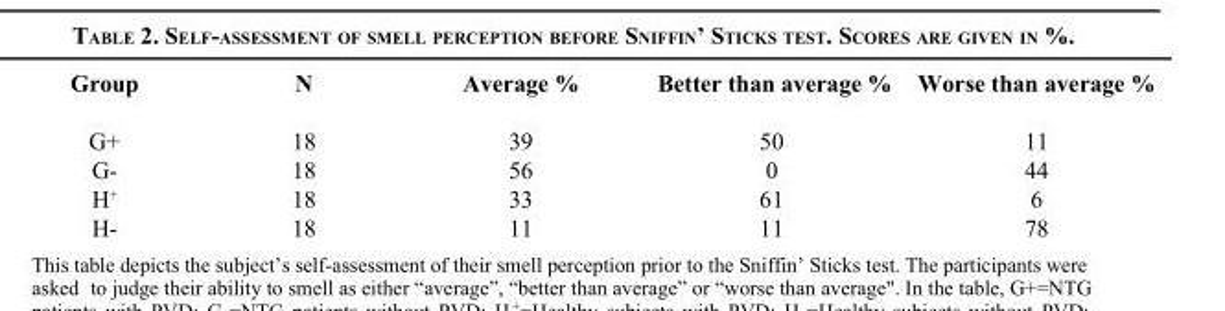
<table><thead><tr><td>Group</td><td>N</td><td>Average %</td><td>Better than average %</td><td>Worse than average %</td></tr></thead><tbody><tr><td>G+</td><td>18</td><td>39</td><td>50</td><td>11</td></tr><tr><td>G-</td><td>18</td><td>56</td><td>0</td><td>44</td></tr><tr><td>H<sup>+</sup></td><td>18</td><td>33</td><td>61</td><td>6</td></tr><tr><td>H-</td><td>18</td><td>11</td><td>11</td><td>78</td></tr></tbody></table>